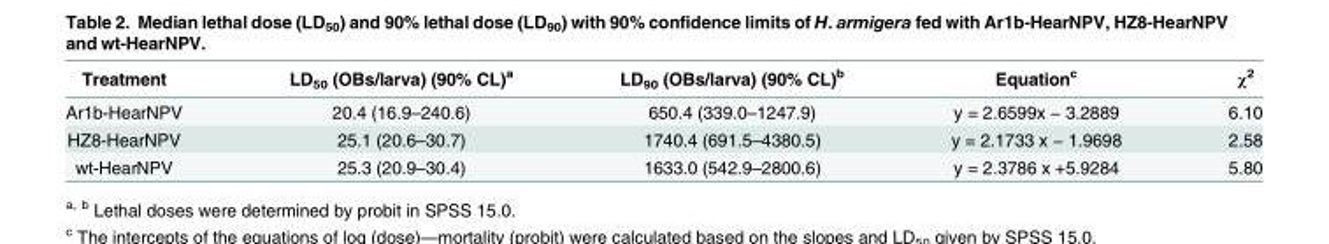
<table><thead><tr><td>Treatment</td><td>LD<sub>50</sub> (OBs/larva) (90% CL)<sup>a</sup></td><td>LD<sub>90</sub> (OBs/larva) (90% CL)<sup>b</sup></td><td>Equation<sup>c</sup></td><td>χ<sup>2</sup></td></tr></thead><tbody><tr><td>Ar1b-HearNPV</td><td>20.4 (16.9–240.6)</td><td>650.4 (339.0–1247.9)</td><td>y = 2.6599x − 3.2889</td><td>6.10</td></tr><tr><td>HZ8-HearNPV</td><td>25.1 (20.6–30.7)</td><td>1740.4 (691.5–4380.5)</td><td>y = 2.1733 x − 1.9698</td><td>2.58</td></tr><tr><td>wt-HearNPV</td><td>25.3 (20.9–30.4)</td><td>1633.0 (542.9–2800.6)</td><td>y = 2.3786 x +5.9284</td><td>5.80</td></tr></tbody></table>